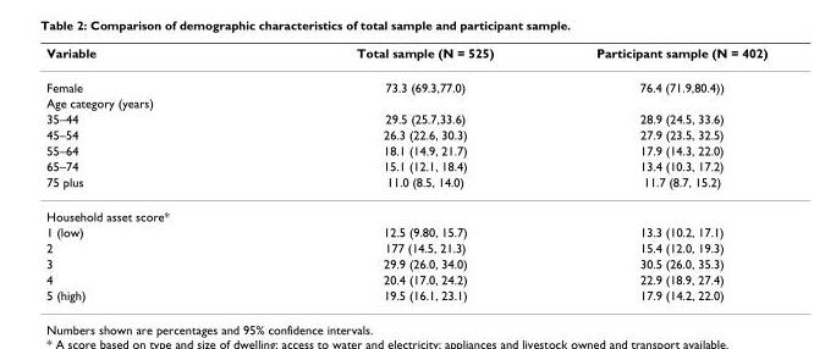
<table><thead><tr><td>Variable</td><td>Total sample (N = 525)</td><td>Participant sample (N = 402)</td></tr></thead><tbody><tr><td>Female</td><td>73.3 (69.3,77.0)</td><td>76.4 (71.9,80.4))</td></tr><tr><td colspan="3">Age category (years)</td></tr><tr><td>35–44</td><td>29.5 (25.7,33.6)</td><td>28.9 (24.5, 33.6)</td></tr><tr><td>45–54</td><td>26.3 (22.6, 30.3)</td><td>27.9 (23.5, 32.5)</td></tr><tr><td>55–64</td><td>18.1 (14.9, 21.7)</td><td>17.9 (14.3, 22.0)</td></tr><tr><td>65–74</td><td>15.1 (12.1, 18.4)</td><td>13.4 (10.3, 17.2)</td></tr><tr><td>75 plus</td><td>11.0 (8.5, 14.0)</td><td>11.7 (8.7, 15.2)</td></tr><tr><td colspan="3">Household asset score*</td></tr><tr><td>1 (low)</td><td>12.5 (9.80, 15.7)</td><td>13.3 (10.2, 17.1)</td></tr><tr><td>2</td><td>177 (14.5, 21.3)</td><td>15.4 (12.0, 19.3)</td></tr><tr><td>3</td><td>29.9 (26.0, 34.0)</td><td>30.5 (26.0, 35.3)</td></tr><tr><td>4</td><td>20.4 (17.0, 24.2)</td><td>22.9 (18.9, 27.4)</td></tr><tr><td>5 (high)</td><td>19.5 (16.1, 23.1)</td><td>17.9 (14.2, 22.0)</td></tr></tbody></table>